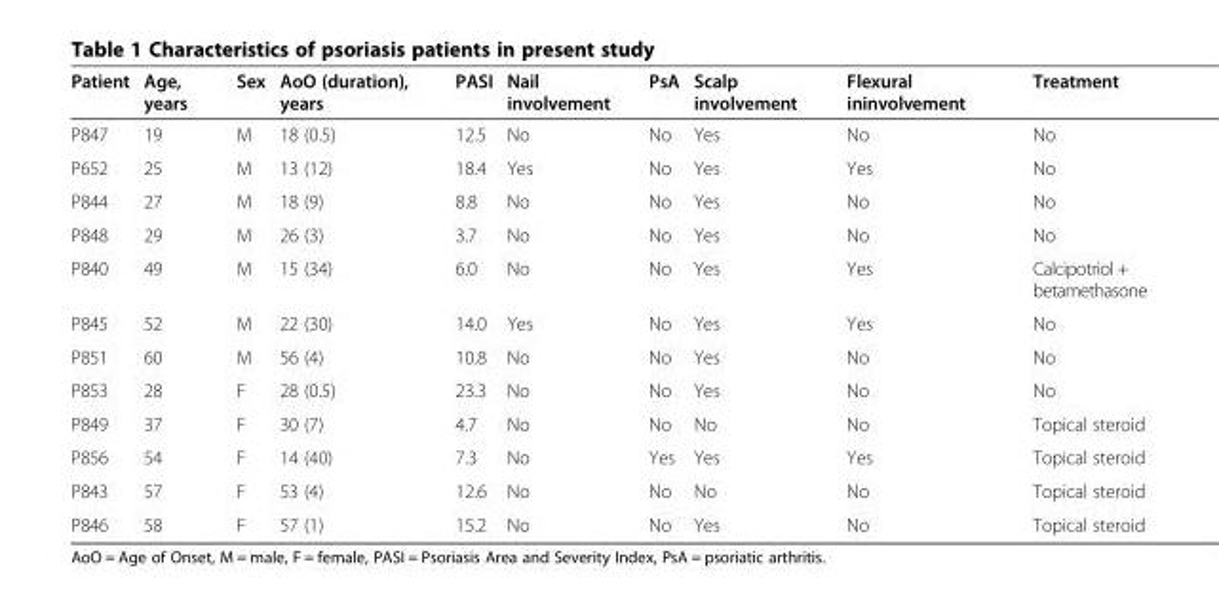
<table><thead><tr><td>Patient</td><td>Age, years</td><td>Sex</td><td>AoO (duration), years</td><td>PASI</td><td>Nail involvement</td><td>PsA</td><td>Scalp involvement</td><td>Flexural ininvolvement</td><td>Treatment</td></tr></thead><tbody><tr><td>P847</td><td>19</td><td>M</td><td>18 (0.5)</td><td>12.5</td><td>No</td><td>No</td><td>Yes</td><td>No</td><td>No</td></tr><tr><td>P652</td><td>25</td><td>M</td><td>13 (12)</td><td>18.4</td><td>Yes</td><td>No</td><td>Yes</td><td>Yes</td><td>No</td></tr><tr><td>P844</td><td>27</td><td>M</td><td>18 (9)</td><td>8.8</td><td>No</td><td>No</td><td>Yes</td><td>No</td><td>No</td></tr><tr><td>P848</td><td>29</td><td>M</td><td>26 (3)</td><td>3.7</td><td>No</td><td>No</td><td>Yes</td><td>No</td><td>No</td></tr><tr><td>P840</td><td>49</td><td>M</td><td>15 (34)</td><td>6.0</td><td>No</td><td>No</td><td>Yes</td><td>Yes</td><td>Calcipotriol + betamethasone</td></tr><tr><td>P845</td><td>52</td><td>M</td><td>22 (30)</td><td>14.0</td><td>Yes</td><td>No</td><td>Yes</td><td>Yes</td><td>No</td></tr><tr><td>P851</td><td>60</td><td>M</td><td>56 (4)</td><td>10.8</td><td>No</td><td>No</td><td>Yes</td><td>No</td><td>No</td></tr><tr><td>P853</td><td>28</td><td>F</td><td>28 (0.5)</td><td>23.3</td><td>No</td><td>No</td><td>Yes</td><td>No</td><td>No</td></tr><tr><td>P849</td><td>37</td><td>F</td><td>30 (7)</td><td>4.7</td><td>No</td><td>No</td><td>No</td><td>No</td><td>Topical steroid</td></tr><tr><td>P856</td><td>54</td><td>F</td><td>14 (40)</td><td>7.3</td><td>No</td><td>Yes</td><td>Yes</td><td>Yes</td><td>Topical steroid</td></tr><tr><td>P843</td><td>57</td><td>F</td><td>53 (4)</td><td>12.6</td><td>No</td><td>No</td><td>No</td><td>No</td><td>Topical steroid</td></tr><tr><td>P846</td><td>58</td><td>F</td><td>57 (1)</td><td>15.2</td><td>No</td><td>No</td><td>Yes</td><td>No</td><td>Topical steroid</td></tr></tbody></table>